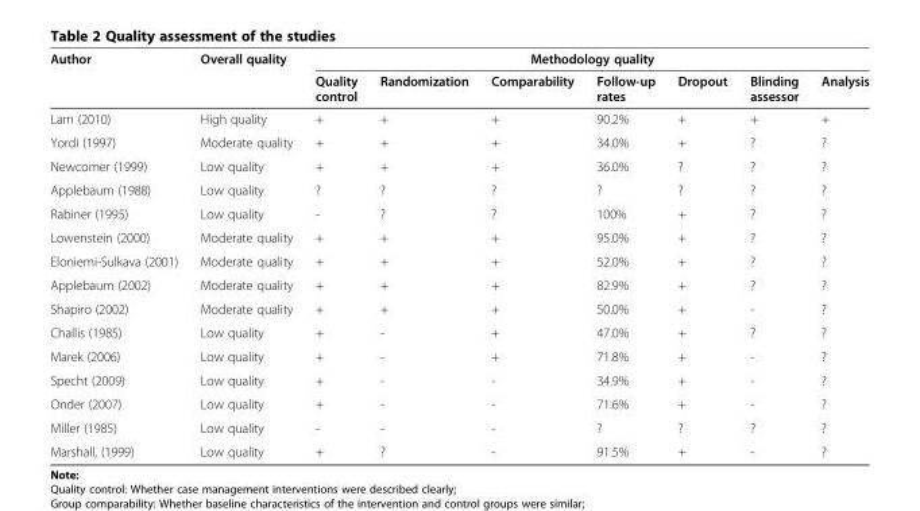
<table><thead><tr><td rowspan="2">Author</td><td rowspan="2">Overall quality</td><td colspan="7">Methodology quality</td></tr><tr><td>Quality control</td><td>Randomization</td><td>Comparability</td><td>Follow-up rates</td><td>Dropout</td><td>Blinding assessor</td><td>Analysis</td></tr></thead><tbody><tr><td>Lam (2010)</td><td>High quality</td><td>+</td><td>+</td><td>+</td><td>90.2%</td><td>+</td><td>+</td><td>+</td></tr><tr><td>Yordi (1997)</td><td>Moderate quality</td><td>+</td><td>+</td><td>+</td><td>34.0%</td><td>+</td><td>?</td><td>?</td></tr><tr><td>Newcomer (1999)</td><td>Low quality</td><td>+</td><td>+</td><td>+</td><td>36.0%</td><td>?</td><td>?</td><td>?</td></tr><tr><td>Applebaum (1988)</td><td>Low quality</td><td>?</td><td>?</td><td>?</td><td>?</td><td>?</td><td>?</td><td>?</td></tr><tr><td>Rabiner (1995)</td><td>Low quality</td><td>-</td><td>?</td><td>?</td><td>100%</td><td>+</td><td>?</td><td>?</td></tr><tr><td>Lowenstein (2000)</td><td>Moderate quality</td><td>+</td><td>+</td><td>+</td><td>95.0%</td><td>+</td><td>?</td><td>?</td></tr><tr><td>Eloniemi-Sulkava (2001)</td><td>Moderate quality</td><td>+</td><td>+</td><td>+</td><td>52.0%</td><td>+</td><td>?</td><td>?</td></tr><tr><td>Applebaum (2002)</td><td>Moderate quality</td><td>+</td><td>+</td><td>+</td><td>82.9%</td><td>+</td><td>?</td><td>?</td></tr><tr><td>Shapiro (2002)</td><td>Moderate quality</td><td>+</td><td>+</td><td>+</td><td>50.0%</td><td>+</td><td>-</td><td>?</td></tr><tr><td>Challis (1985)</td><td>Low quality</td><td>+</td><td>-</td><td>+</td><td>47.0%</td><td>+</td><td>?</td><td>?</td></tr><tr><td>Marek (2006)</td><td>Low quality</td><td>+</td><td>-</td><td>+</td><td>71.8%</td><td>+</td><td>-</td><td>?</td></tr><tr><td>Specht (2009)</td><td>Low quality</td><td>+</td><td>-</td><td>-</td><td>34.9%</td><td>+</td><td>-</td><td>?</td></tr><tr><td>Onder (2007)</td><td>Low quality</td><td>+</td><td>-</td><td>-</td><td>71.6%</td><td>+</td><td>-</td><td>?</td></tr><tr><td>Miller (1985)</td><td>Low quality</td><td>-</td><td>-</td><td>-</td><td>?</td><td>?</td><td>?</td><td>?</td></tr><tr><td>Marshall, (1999)</td><td>Low quality</td><td>+</td><td>?</td><td>-</td><td>91.5%</td><td>+</td><td>-</td><td>?</td></tr></tbody></table>